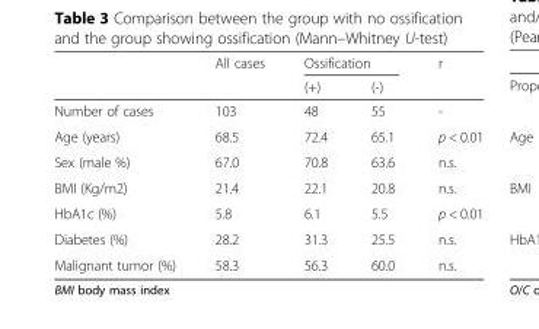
<table><thead><tr><td rowspan="2"></td><td rowspan="2">All cases</td><td colspan="2">Ossification</td><td rowspan="2">r</td></tr><tr><td>(+)</td><td>(-)</td></tr></thead><tbody><tr><td>Number of cases</td><td>103</td><td>48</td><td>55</td><td>-</td></tr><tr><td>Age (years)</td><td>68.5</td><td>72.4</td><td>65.1</td><td>p &lt; 0.01</td></tr><tr><td>Sex (male %)</td><td>67.0</td><td>70.8</td><td>63.6</td><td>n.s.</td></tr><tr><td>BMI (Kg/m2)</td><td>21.4</td><td>22.1</td><td>20.8</td><td>n.s.</td></tr><tr><td>HbA1c (%)</td><td>5.8</td><td>6.1</td><td>5.5</td><td>p &lt; 0.01</td></tr><tr><td>Diabetes (%)</td><td>28.2</td><td>31.3</td><td>25.5</td><td>n.s.</td></tr><tr><td>Malignant tumor (%)</td><td>58.3</td><td>56.3</td><td>60.0</td><td>n.s.</td></tr></tbody></table>